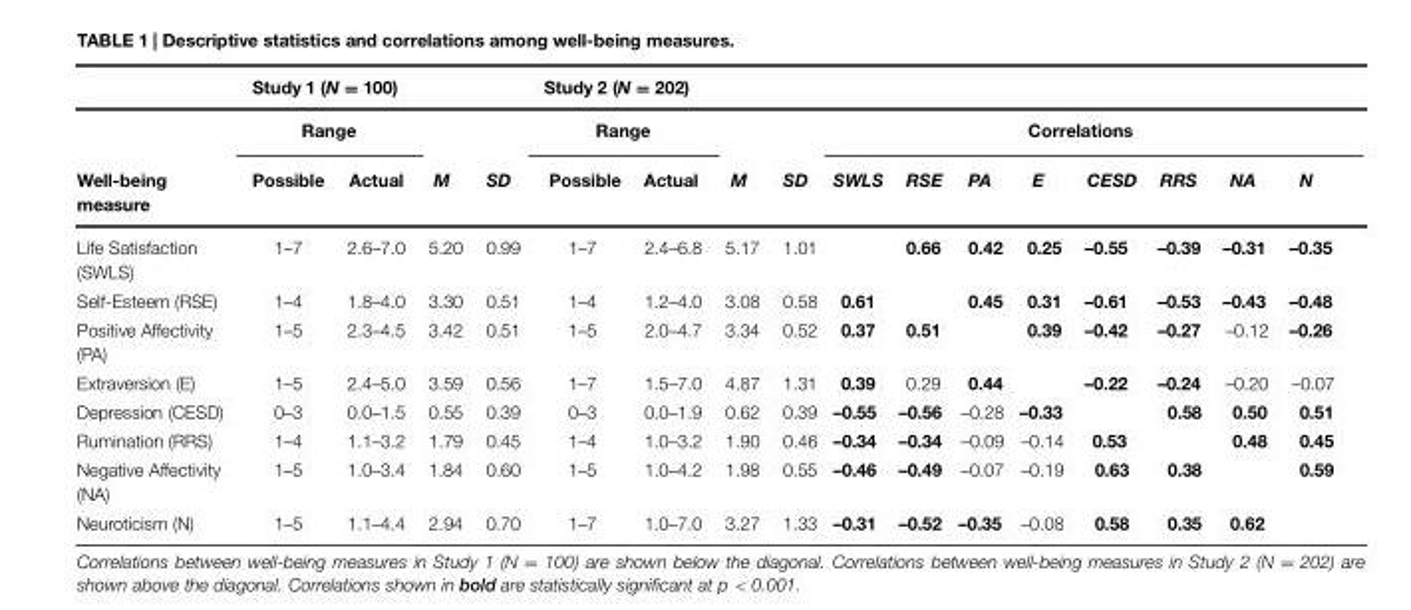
<table><thead><tr><td rowspan="3">Well-being measure</td><td colspan="4">Study 1 (N = 100)</td><td colspan="4">Study 2 (N = 202)</td><td></td><td></td><td></td><td></td><td></td><td></td><td></td><td></td></tr><tr><td colspan="2">Range</td><td rowspan="2">M</td><td rowspan="2">SD</td><td colspan="2">Range</td><td rowspan="2">M</td><td rowspan="2">SD</td><td colspan="8">Correlations</td></tr><tr><td>Possible</td><td>Actual</td><td>Possible</td><td>Actual</td><td>SWLS</td><td>RSE</td><td>PA</td><td>E</td><td>CESD</td><td>RRS</td><td>NA</td><td>N</td></tr></thead><tbody><tr><td>Life Satisfaction (SWLS)</td><td>1–7</td><td>2.6–7.0</td><td>5.20</td><td>0.99</td><td>1–7</td><td>2.4–6.8</td><td>5.17</td><td>1.01</td><td></td><td>0.66</td><td>0.42</td><td>0.25</td><td>–0.55</td><td>–0.39</td><td>–0.31</td><td>–0.35</td></tr><tr><td>Self-Esteem (RSE)</td><td>1–4</td><td>1.8–4.0</td><td>3.30</td><td>0.51</td><td>1–4</td><td>1.2–4.0</td><td>3.08</td><td>0.58</td><td>0.61</td><td></td><td>0.45</td><td>0.31</td><td>–0.61</td><td>–0.53</td><td>–0.43</td><td>–0.48</td></tr><tr><td>Positive Affectivity (PA)</td><td>1–5</td><td>2.3–4.5</td><td>3.42</td><td>0.51</td><td>1–5</td><td>2.0–4.7</td><td>3.34</td><td>0.52</td><td>0.37</td><td>0.51</td><td></td><td>0.39</td><td>–0.42</td><td>–0.27</td><td>–0.12</td><td>–0.26</td></tr><tr><td>Extraversion (E)</td><td>1–5</td><td>2.4–5.0</td><td>3.59</td><td>0.56</td><td>1–7</td><td>1.5–7.0</td><td>4.87</td><td>1.31</td><td>0.39</td><td>0.29</td><td>0.44</td><td></td><td>–0.22</td><td>–0.24</td><td>–0.20</td><td>–0.07</td></tr><tr><td>Depression (CESD)</td><td>0–3</td><td>0.0–1.5</td><td>0.55</td><td>0.39</td><td>0–3</td><td>0.0–1.9</td><td>0.62</td><td>0.39</td><td>–0.55</td><td>–0.56</td><td>–0.28</td><td>–0.33</td><td></td><td>0.58</td><td>0.50</td><td>0.51</td></tr><tr><td>Rumination (RRS)</td><td>1–4</td><td>1.1–3.2</td><td>1.79</td><td>0.45</td><td>1–4</td><td>1.0–3.2</td><td>1.90</td><td>0.46</td><td>–0.34</td><td>–0.34</td><td>–0.09</td><td>–0.14</td><td>0.53</td><td></td><td>0.48</td><td>0.45</td></tr><tr><td>Negative Affectivity (NA)</td><td>1–5</td><td>1.0–3.4</td><td>1.84</td><td>0.60</td><td>1–5</td><td>1.0–4.2</td><td>1.98</td><td>0.55</td><td>–0.46</td><td>–0.49</td><td>–0.07</td><td>–0.19</td><td>0.63</td><td>0.38</td><td></td><td>0.59</td></tr><tr><td>Neuroticism (N)</td><td>1–5</td><td>1.1–4.4</td><td>2.94</td><td>0.70</td><td>1–7</td><td>1.0–7.0</td><td>3.27</td><td>1.33</td><td>–0.31</td><td>–0.52</td><td>–0.35</td><td>–0.08</td><td>0.58</td><td>0.35</td><td>0.62</td><td></td></tr></tbody></table>